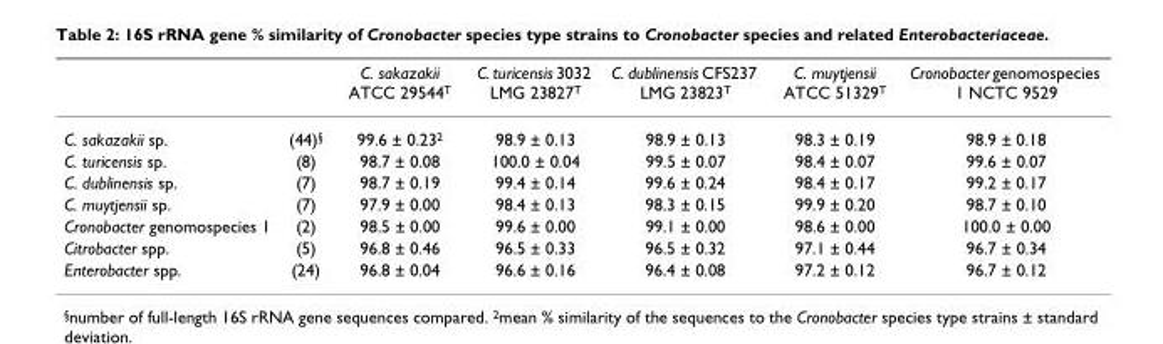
<table><thead><tr><td></td><td></td><td>C. sakazakii ATCC 29544<sup>T</sup></td><td>C. turicensis 3032 LMG 23827<sup>T</sup></td><td>C. dublinensis CFS237 LMG 23823<sup>T</sup></td><td>C. muytjensii ATCC 51329<sup>T</sup></td><td>Cronobacter genomospecies 1 NCTC 9529</td></tr></thead><tbody><tr><td>C. sakazakii sp.</td><td>(44)<sup>§</sup></td><td>99.6 ± 0.23<sup>2</sup></td><td>98.9 ± 0.13</td><td>98.9 ± 0.13</td><td>98.3 ± 0.19</td><td>98.9 ± 0.18</td></tr><tr><td>C. turicensis sp.</td><td>(8)</td><td>98.7 ± 0.08</td><td>100.0 ± 0.04</td><td>99.5 ± 0.07</td><td>98.4 ± 0.07</td><td>99.6 ± 0.07</td></tr><tr><td>C. dublinensis sp.</td><td>(7)</td><td>98.7 ± 0.19</td><td>99.4 ± 0.14</td><td>99.6 ± 0.24</td><td>98.4 ± 0.17</td><td>99.2 ± 0.17</td></tr><tr><td>C. muytjensii sp.</td><td>(7)</td><td>97.9 ± 0.00</td><td>98.4 ± 0.13</td><td>98.3 ± 0.15</td><td>99.9 ± 0.20</td><td>98.7 ± 0.10</td></tr><tr><td>Cronobacter genomospecies 1</td><td>(2)</td><td>98.5 ± 0.00</td><td>99.6 ± 0.00</td><td>99.1 ± 0.00</td><td>98.6 ± 0.00</td><td>100.0 ± 0.00</td></tr><tr><td>Citrobacter spp.</td><td>(5)</td><td>96.8 ± 0.46</td><td>96.5 ± 0.33</td><td>96.5 ± 0.32</td><td>97.1 ± 0.44</td><td>96.7 ± 0.34</td></tr><tr><td>Enterobacter spp.</td><td>(24)</td><td>96.8 ± 0.04</td><td>96.6 ± 0.16</td><td>96.4 ± 0.08</td><td>97.2 ± 0.12</td><td>96.7 ± 0.12</td></tr></tbody></table>